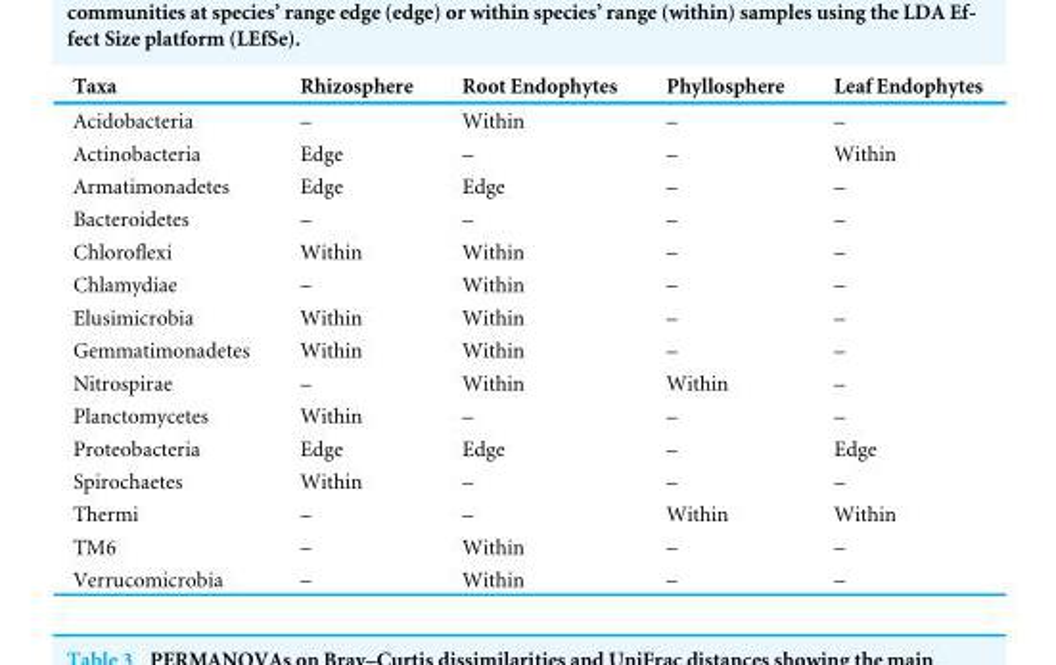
<table><thead><tr><td>Taxa</td><td>Rhizosphere</td><td>Root Endophytes</td><td>Phyllosphere</td><td>Leaf Endophytes</td></tr></thead><tbody><tr><td>Acidobacteria</td><td>–</td><td>Within</td><td>–</td><td>–</td></tr><tr><td>Actinobacteria</td><td>Edge</td><td>–</td><td>–</td><td>Within</td></tr><tr><td>Armatimonadetes</td><td>Edge</td><td>Edge</td><td>–</td><td>–</td></tr><tr><td>Bacteroidetes</td><td>–</td><td>–</td><td>–</td><td>–</td></tr><tr><td>Chloroflexi</td><td>Within</td><td>Within</td><td>–</td><td>–</td></tr><tr><td>Chlamydiae</td><td>–</td><td>Within</td><td>–</td><td>–</td></tr><tr><td>Elusimicrobia</td><td>Within</td><td>Within</td><td>–</td><td>–</td></tr><tr><td>Gemmatimonadetes</td><td>Within</td><td>Within</td><td>–</td><td>–</td></tr><tr><td>Nitrospirae</td><td>–</td><td>Within</td><td>Within</td><td>–</td></tr><tr><td>Planctomycetes</td><td>Within</td><td>–</td><td>–</td><td>–</td></tr><tr><td>Proteobacteria</td><td>Edge</td><td>Edge</td><td>–</td><td>Edge</td></tr><tr><td>Spirochaetes</td><td>Within</td><td>–</td><td>–</td><td>–</td></tr><tr><td>Thermi</td><td>–</td><td>–</td><td>Within</td><td>Within</td></tr><tr><td>TM6</td><td>–</td><td>Within</td><td>–</td><td>–</td></tr><tr><td>Verrucomicrobia</td><td>–</td><td>Within</td><td>–</td><td>–</td></tr></tbody></table>